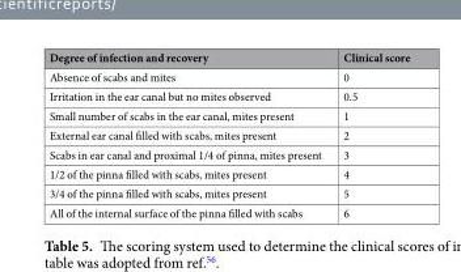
<table><thead><tr><td>Degree of infection and recovery</td><td>Clinical score</td></tr></thead><tbody><tr><td>Absence of scabs and mites</td><td>0</td></tr><tr><td>Irritation in the ear canal but no mites observed</td><td>0.5</td></tr><tr><td>Small number of scabs in the ear canal, mites present</td><td>1</td></tr><tr><td>External ear canal filled with scabs, mites present</td><td>2</td></tr><tr><td>Scabs in ear canal and proximal 1/4 of pinna, mites present</td><td>3</td></tr><tr><td>1/2 of the pinna filled with scabs, mites present</td><td>4</td></tr><tr><td>3/4 of the pinna filled with scabs, mites present</td><td>5</td></tr><tr><td>All of the internal surface of the pinna filled with scabs</td><td>6</td></tr></tbody></table>